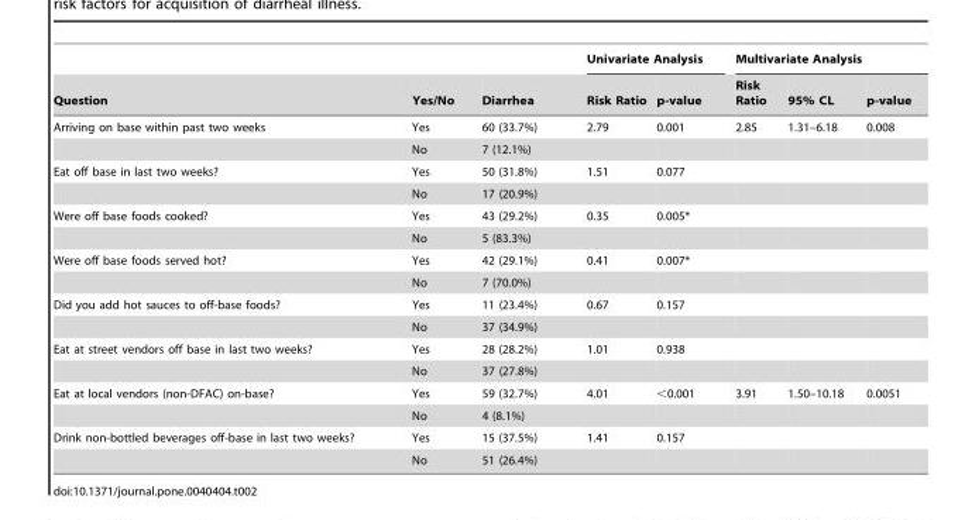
<table><thead><tr><td rowspan="2">Question</td><td rowspan="2">Yes/No</td><td rowspan="2">Diarrhea</td><td colspan="2">Univariate Analysis</td><td colspan="3">Multivariate Analysis</td></tr><tr><td>Risk Ratio</td><td>p-value</td><td>Risk Ratio</td><td>95% CL</td><td>p-value</td></tr></thead><tbody><tr><td rowspan="2">Arriving on base within past two weeks</td><td>Yes</td><td>60 (33.7%)</td><td>2.79</td><td>0.001</td><td>2.85</td><td>1.31–6.18</td><td>0.008</td></tr><tr><td>No</td><td>7 (12.1%)</td><td></td><td></td><td></td><td></td><td></td></tr><tr><td rowspan="2">Eat off base in last two weeks?</td><td>Yes</td><td>50 (31.8%)</td><td>1.51</td><td>0.077</td><td></td><td></td><td></td></tr><tr><td>No</td><td>17 (20.9%)</td><td></td><td></td><td></td><td></td><td></td></tr><tr><td rowspan="2">Were off base foods cooked?</td><td>Yes</td><td>43 (29.2%)</td><td>0.35</td><td>0.005*</td><td></td><td></td><td></td></tr><tr><td>No</td><td>5 (83.3%)</td><td></td><td></td><td></td><td></td><td></td></tr><tr><td rowspan="2">Were off base foods served hot?</td><td>Yes</td><td>42 (29.1%)</td><td>0.41</td><td>0.007*</td><td></td><td></td><td></td></tr><tr><td>No</td><td>7 (70.0%)</td><td></td><td></td><td></td><td></td><td></td></tr><tr><td rowspan="2">Did you add hot sauces to off-base foods?</td><td>Yes</td><td>11 (23.4%)</td><td>0.67</td><td>0.157</td><td></td><td></td><td></td></tr><tr><td>No</td><td>37 (34.9%)</td><td></td><td></td><td></td><td></td><td></td></tr><tr><td rowspan="2">Eat at street vendors off base in last two weeks?</td><td>Yes</td><td>28 (28.2%)</td><td>1.01</td><td>0.938</td><td></td><td></td><td></td></tr><tr><td>No</td><td>37 (27.8%)</td><td></td><td></td><td></td><td></td><td></td></tr><tr><td rowspan="2">Eat at local vendors (non-DFAC) on-base?</td><td>Yes</td><td>59 (32.7%)</td><td>4.01</td><td>&lt;0.001</td><td>3.91</td><td>1.50–10.18</td><td>0.0051</td></tr><tr><td>No</td><td>4 (8.1%)</td><td></td><td></td><td></td><td></td><td></td></tr><tr><td rowspan="2">Drink non-bottled beverages off-base in last two weeks?</td><td>Yes</td><td>15 (37.5%)</td><td>1.41</td><td>0.157</td><td></td><td></td><td></td></tr><tr><td>No</td><td>51 (26.4%)</td><td></td><td></td><td></td><td></td><td></td></tr></tbody></table>